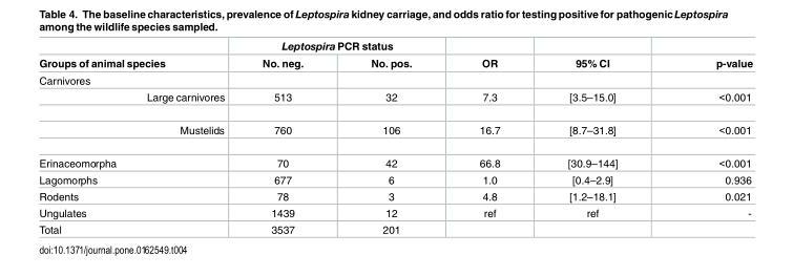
<table><thead><tr><td rowspan="2">Groups of animal species</td><td colspan="2">Leptospira PCR status</td><td rowspan="2">OR</td><td rowspan="2">95% CI</td><td rowspan="2">p-value</td></tr><tr><td>No. neg.</td><td>No. pos.</td></tr></thead><tbody><tr><td colspan="6">Carnivores</td></tr><tr><td>Large carnivores</td><td>513</td><td>32</td><td>7.3</td><td>[3.5–15.0]</td><td>&lt;0.001</td></tr><tr><td>Mustelids</td><td>760</td><td>106</td><td>16.7</td><td>[8.7–31.8]</td><td>&lt;0.001</td></tr><tr><td>Erinaceomorpha</td><td>70</td><td>42</td><td>66.8</td><td>[30.9–144]</td><td>&lt;0.001</td></tr><tr><td>Lagomorphs</td><td>677</td><td>6</td><td>1.0</td><td>[0.4–2.9]</td><td>0.936</td></tr><tr><td>Rodents</td><td>78</td><td>3</td><td>4.8</td><td>[1.2–18.1]</td><td>0.021</td></tr><tr><td>Ungulates</td><td>1439</td><td>12</td><td>ref</td><td>ref</td><td>-</td></tr><tr><td>Total</td><td>3537</td><td>201</td><td></td><td></td><td></td></tr></tbody></table>